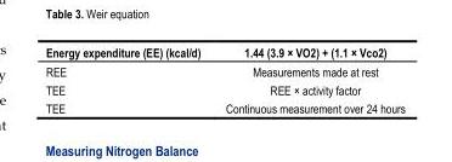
<table><thead><tr><td>Energy expenditure (EE) (kcal/d)</td><td>1.44 (3.9 × VO2) + (1.1 × Vco2)</td></tr></thead><tbody><tr><td>REE</td><td>Measurements made at rest</td></tr><tr><td>TEE</td><td>REE × activity factor</td></tr><tr><td>TEE</td><td>Continuous measurement over 24 hours</td></tr></tbody></table>